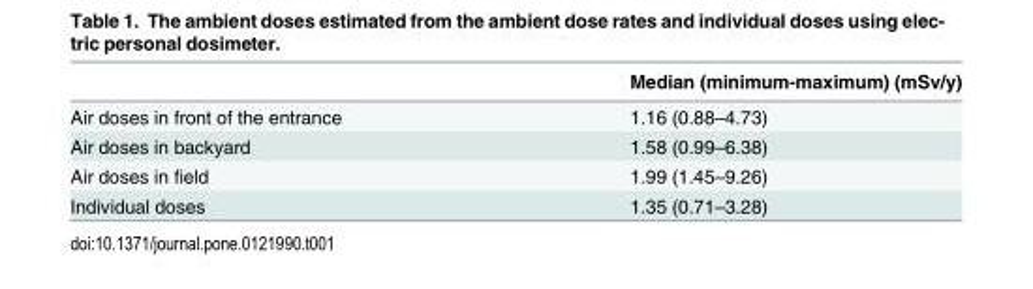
<table><thead><tr><td></td><td>Median (minimum-maximum) (mSv/y)</td></tr></thead><tbody><tr><td>Air doses in front of the entrance</td><td>1.16 (0.88–4.73)</td></tr><tr><td>Air doses in backyard</td><td>1.58 (0.99–6.38)</td></tr><tr><td>Air doses in field</td><td>1.99 (1.45–9.26)</td></tr><tr><td>Individual doses</td><td>1.35 (0.71–3.28)</td></tr></tbody></table>